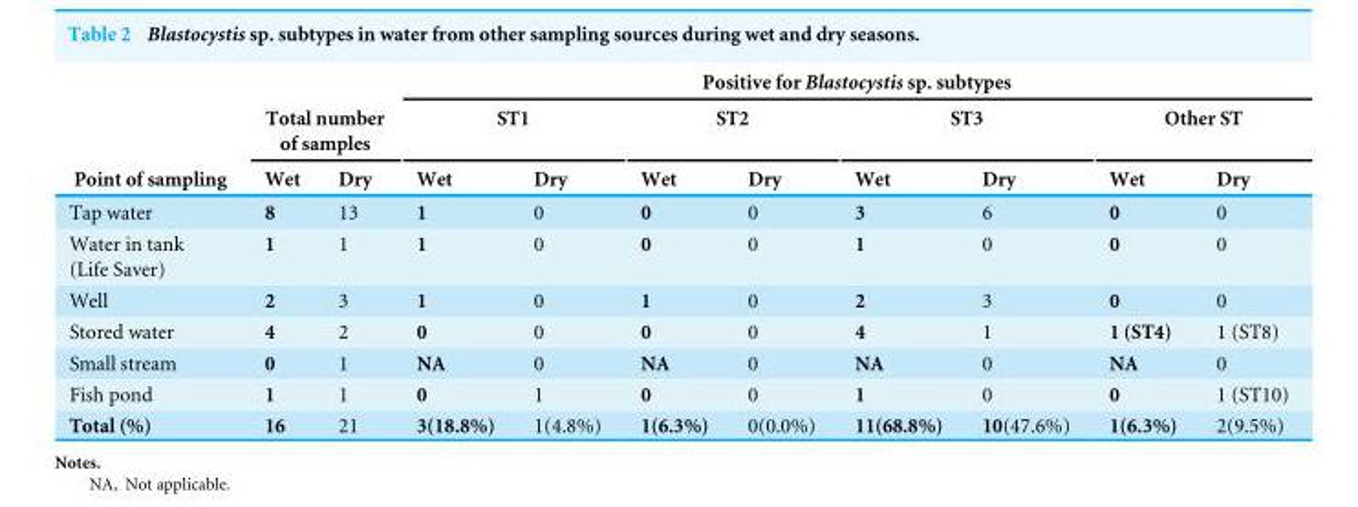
<table><thead><tr><td rowspan="3">Point of sampling</td><td></td><td></td><td colspan="8">Positive for Blastocystis sp. subtypes</td></tr><tr><td colspan="2">Total number of samples</td><td colspan="2">ST1</td><td colspan="2">ST2</td><td colspan="2">ST3</td><td colspan="2">Other ST</td></tr><tr><td>Wet</td><td>Dry</td><td>Wet</td><td>Dry</td><td>Wet</td><td>Dry</td><td>Wet</td><td>Dry</td><td>Wet</td><td>Dry</td></tr></thead><tbody><tr><td>Tap water</td><td>8</td><td>13</td><td>1</td><td>0</td><td>0</td><td>0</td><td>3</td><td>6</td><td>0</td><td>0</td></tr><tr><td>Water in tank (Life Saver)</td><td>1</td><td>1</td><td>1</td><td>0</td><td>0</td><td>0</td><td>1</td><td>0</td><td>0</td><td>0</td></tr><tr><td>Well</td><td>2</td><td>3</td><td>1</td><td>0</td><td>1</td><td>0</td><td>2</td><td>3</td><td>0</td><td>0</td></tr><tr><td>Stored water</td><td>4</td><td>2</td><td>0</td><td>0</td><td>0</td><td>0</td><td>4</td><td>1</td><td>1 (ST4)</td><td>1 (ST8)</td></tr><tr><td>Small stream</td><td>0</td><td>1</td><td>NA</td><td>0</td><td>NA</td><td>0</td><td>NA</td><td>0</td><td>NA</td><td>0</td></tr><tr><td>Fish pond</td><td>1</td><td>1</td><td>0</td><td>1</td><td>0</td><td>0</td><td>1</td><td>0</td><td>0</td><td>1 (ST10)</td></tr><tr><td>Total (%)</td><td>16</td><td>21</td><td>3(18.8%)</td><td>1(4.8%)</td><td>1(6.3%)</td><td>0(0.0%)</td><td>11(68.8%)</td><td>10(47.6%)</td><td>1(6.3%)</td><td>2(9.5%)</td></tr></tbody></table>